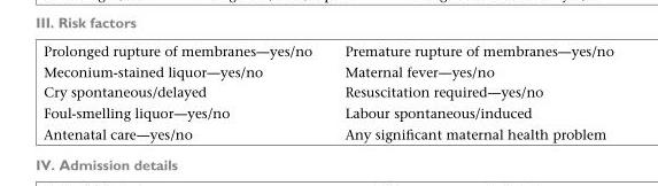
<table><tbody><tr><td>Prolonged rupture of membranes―yes/no</td><td>Premature rupture of membranes―yes/no</td></tr><tr><td>Meconium-stained liquor―yes/no</td><td>Maternal fever―yes/no</td></tr><tr><td>Cry spontaneous/delayed</td><td>Resuscitation required―yes/no</td></tr><tr><td>Foul-smelling liquor―yes/no</td><td>Labour spontaneous/induced</td></tr><tr><td>Antenatal care―yes/no</td><td>Any significant maternal health problem</td></tr></tbody></table>